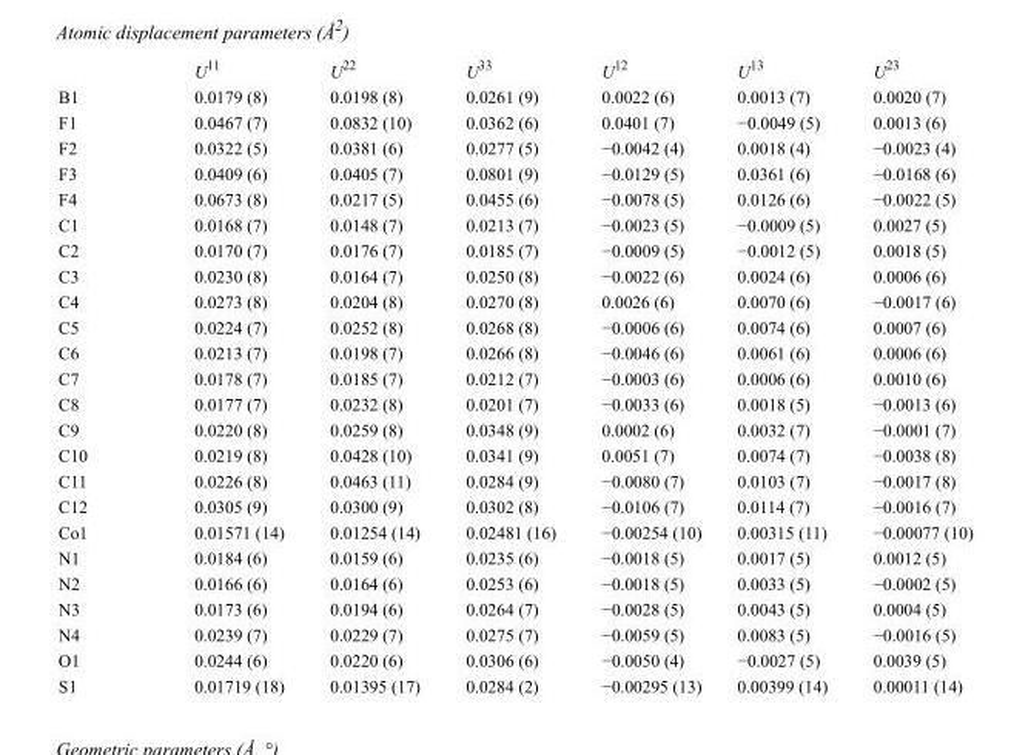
<table><thead><tr><td></td><td>U<sup>11</sup></td><td>U<sup>22</sup></td><td>U<sup>33</sup></td><td>U<sup>12</sup></td><td>U<sup>13</sup></td><td>U<sup>23</sup></td></tr></thead><tbody><tr><td>B1</td><td>0.0179 (8)</td><td>0.0198 (8)</td><td>0.0261 (9)</td><td>0.0022 (6)</td><td>0.0013 (7)</td><td>0.0020 (7)</td></tr><tr><td>F1</td><td>0.0467 (7)</td><td>0.0832 (10)</td><td>0.0362 (6)</td><td>0.0401 (7)</td><td>−0.0049 (5)</td><td>0.0013 (6)</td></tr><tr><td>F2</td><td>0.0322 (5)</td><td>0.0381 (6)</td><td>0.0277 (5)</td><td>−0.0042 (4)</td><td>0.0018 (4)</td><td>−0.0023 (4)</td></tr><tr><td>F3</td><td>0.0409 (6)</td><td>0.0405 (7)</td><td>0.0801 (9)</td><td>−0.0129 (5)</td><td>0.0361 (6)</td><td>−0.0168 (6)</td></tr><tr><td>F4</td><td>0.0673 (8)</td><td>0.0217 (5)</td><td>0.0455 (6)</td><td>−0.0078 (5)</td><td>0.0126 (6)</td><td>−0.0022 (5)</td></tr><tr><td>C1</td><td>0.0168 (7)</td><td>0.0148 (7)</td><td>0.0213 (7)</td><td>−0.0023 (5)</td><td>−0.0009 (5)</td><td>0.0027 (5)</td></tr><tr><td>C2</td><td>0.0170 (7)</td><td>0.0176 (7)</td><td>0.0185 (7)</td><td>−0.0009 (5)</td><td>−0.0012 (5)</td><td>0.0018 (5)</td></tr><tr><td>C3</td><td>0.0230 (8)</td><td>0.0164 (7)</td><td>0.0250 (8)</td><td>−0.0022 (6)</td><td>0.0024 (6)</td><td>0.0006 (6)</td></tr><tr><td>C4</td><td>0.0273 (8)</td><td>0.0204 (8)</td><td>0.0270 (8)</td><td>0.0026 (6)</td><td>0.0070 (6)</td><td>−0.0017 (6)</td></tr><tr><td>C5</td><td>0.0224 (7)</td><td>0.0252 (8)</td><td>0.0268 (8)</td><td>−0.0006 (6)</td><td>0.0074 (6)</td><td>0.0007 (6)</td></tr><tr><td>C6</td><td>0.0213 (7)</td><td>0.0198 (7)</td><td>0.0266 (8)</td><td>−0.0046 (6)</td><td>0.0061 (6)</td><td>0.0006 (6)</td></tr><tr><td>C7</td><td>0.0178 (7)</td><td>0.0185 (7)</td><td>0.0212 (7)</td><td>−0.0003 (6)</td><td>0.0006 (6)</td><td>0.0010 (6)</td></tr><tr><td>C8</td><td>0.0177 (7)</td><td>0.0232 (8)</td><td>0.0201 (7)</td><td>−0.0033 (6)</td><td>0.0018 (5)</td><td>−0.0013 (6)</td></tr><tr><td>C9</td><td>0.0220 (8)</td><td>0.0259 (8)</td><td>0.0348 (9)</td><td>0.0002 (6)</td><td>0.0032 (7)</td><td>−0.0001 (7)</td></tr><tr><td>C10</td><td>0.0219 (8)</td><td>0.0428 (10)</td><td>0.0341 (9)</td><td>0.0051 (7)</td><td>0.0074 (7)</td><td>−0.0038 (8)</td></tr><tr><td>C11</td><td>0.0226 (8)</td><td>0.0463 (11)</td><td>0.0284 (9)</td><td>−0.0080 (7)</td><td>0.0103 (7)</td><td>−0.0017 (8)</td></tr><tr><td>C12</td><td>0.0305 (9)</td><td>0.0300 (9)</td><td>0.0302 (8)</td><td>−0.0106 (7)</td><td>0.0114 (7)</td><td>−0.0016 (7)</td></tr><tr><td>Co1</td><td>0.01571 (14)</td><td>0.01254 (14)</td><td>0.02481 (16)</td><td>−0.00254 (10)</td><td>0.00315 (11)</td><td>−0.00077 (10)</td></tr><tr><td>N1</td><td>0.0184 (6)</td><td>0.0159 (6)</td><td>0.0235 (6)</td><td>−0.0018 (5)</td><td>0.0017 (5)</td><td>0.0012 (5)</td></tr><tr><td>N2</td><td>0.0166 (6)</td><td>0.0164 (6)</td><td>0.0253 (6)</td><td>−0.0018 (5)</td><td>0.0033 (5)</td><td>−0.0002 (5)</td></tr><tr><td>N3</td><td>0.0173 (6)</td><td>0.0194 (6)</td><td>0.0264 (7)</td><td>−0.0028 (5)</td><td>0.0043 (5)</td><td>0.0004 (5)</td></tr><tr><td>N4</td><td>0.0239 (7)</td><td>0.0229 (7)</td><td>0.0275 (7)</td><td>−0.0059 (5)</td><td>0.0083 (5)</td><td>−0.0016 (5)</td></tr><tr><td>O1</td><td>0.0244 (6)</td><td>0.0220 (6)</td><td>0.0306 (6)</td><td>−0.0050 (4)</td><td>−0.0027 (5)</td><td>0.0039 (5)</td></tr><tr><td>S1</td><td>0.01719 (18)</td><td>0.01395 (17)</td><td>0.0284 (2)</td><td>−0.00295 (13)</td><td>0.00399 (14)</td><td>0.00011 (14)</td></tr></tbody></table>